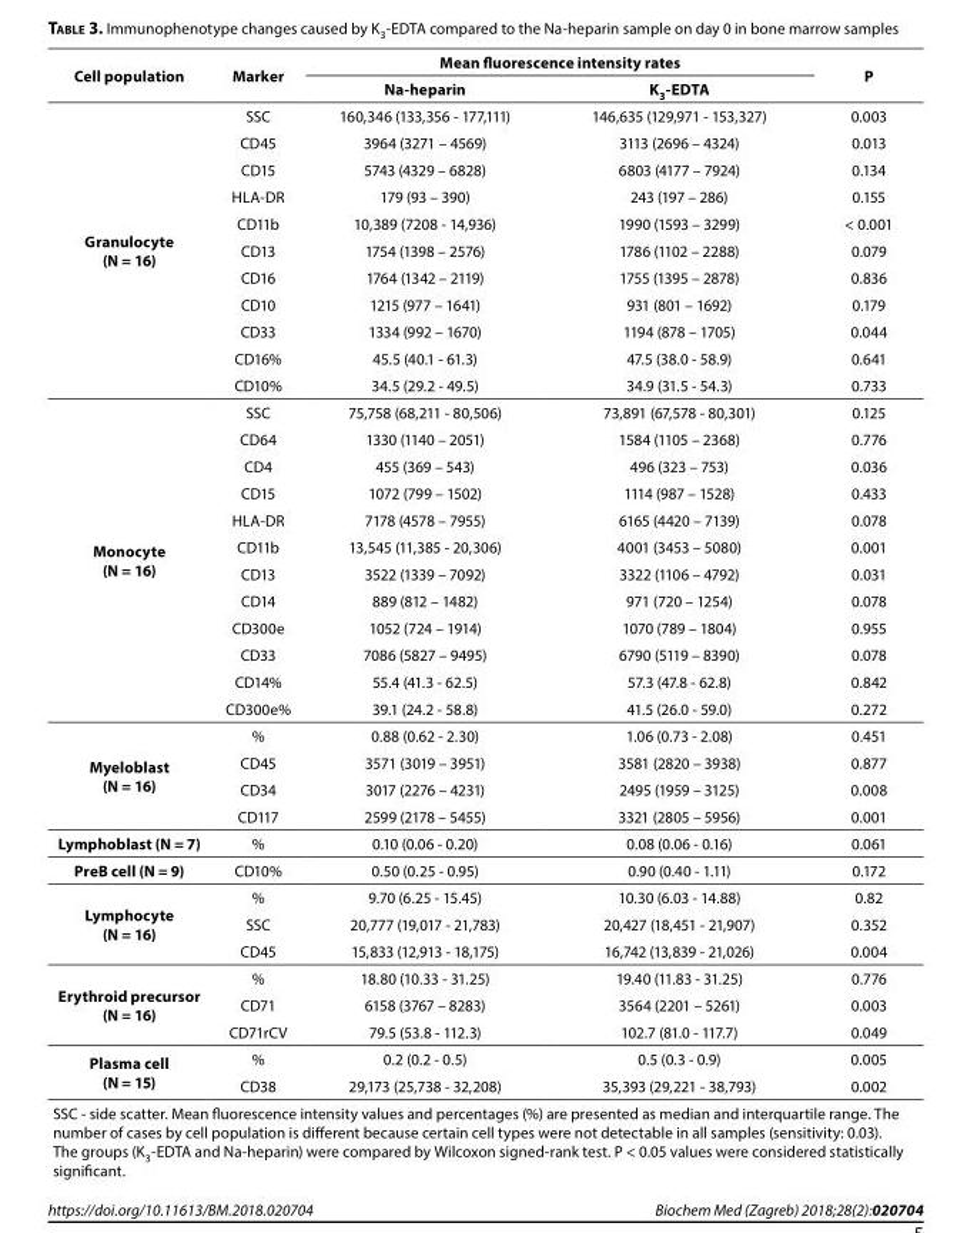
<table><thead><tr><td rowspan="2">Cell population</td><td rowspan="2">Marker</td><td colspan="2">Mean fluorescence intensity rates</td><td rowspan="2">P</td></tr><tr><td>Na-heparin</td><td>K<sub>3</sub>-EDTA</td></tr></thead><tbody><tr><td rowspan="11">Granulocyte (N = 16)</td><td>SSC</td><td>160,346 (133,356 - 177,111)</td><td>146,635 (129,971 - 153,327)</td><td>0.003</td></tr><tr><td>CD45</td><td>3964 (3271 – 4569)</td><td>3113 (2696 – 4324)</td><td>0.013</td></tr><tr><td>CD15</td><td>5743 (4329 – 6828)</td><td>6803 (4177 – 7924)</td><td>0.134</td></tr><tr><td>HLA-DR</td><td>179 (93 – 390)</td><td>243 (197 – 286)</td><td>0.155</td></tr><tr><td>CD11b</td><td>10,389 (7208 - 14,936)</td><td>1990 (1593 – 3299)</td><td>&lt; 0.001</td></tr><tr><td>CD13</td><td>1754 (1398 – 2576)</td><td>1786 (1102 – 2288)</td><td>0.079</td></tr><tr><td>CD16</td><td>1764 (1342 – 2119)</td><td>1755 (1395 – 2878)</td><td>0.836</td></tr><tr><td>CD10</td><td>1215 (977 – 1641)</td><td>931 (801 – 1692)</td><td>0.179</td></tr><tr><td>CD33</td><td>1334 (992 – 1670)</td><td>1194 (878 – 1705)</td><td>0.044</td></tr><tr><td>CD16%</td><td>45.5 (40.1 - 61.3)</td><td>47.5 (38.0 - 58.9)</td><td>0.641</td></tr><tr><td>CD10%</td><td>34.5 (29.2 - 49.5)</td><td>34.9 (31.5 - 54.3)</td><td>0.733</td></tr><tr><td rowspan="12">Monocyte (N = 16)</td><td>SSC</td><td>75,758 (68,211 - 80,506)</td><td>73,891 (67,578 - 80,301)</td><td>0.125</td></tr><tr><td>CD64</td><td>1330 (1140 – 2051)</td><td>1584 (1105 – 2368)</td><td>0.776</td></tr><tr><td>CD4</td><td>455 (369 – 543)</td><td>496 (323 – 753)</td><td>0.036</td></tr><tr><td>CD15</td><td>1072 (799 – 1502)</td><td>1114 (987 – 1528)</td><td>0.433</td></tr><tr><td>HLA-DR</td><td>7178 (4578 – 7955)</td><td>6165 (4420 – 7139)</td><td>0.078</td></tr><tr><td>CD11b</td><td>13,545 (11,385 - 20,306)</td><td>4001 (3453 – 5080)</td><td>0.001</td></tr><tr><td>CD13</td><td>3522 (1339 – 7092)</td><td>3322 (1106 – 4792)</td><td>0.031</td></tr><tr><td>CD14</td><td>889 (812 – 1482)</td><td>971 (720 – 1254)</td><td>0.078</td></tr><tr><td>CD300e</td><td>1052 (724 – 1914)</td><td>1070 (789 – 1804)</td><td>0.955</td></tr><tr><td>CD33</td><td>7086 (5827 – 9495)</td><td>6790 (5119 – 8390)</td><td>0.078</td></tr><tr><td>CD14%</td><td>55.4 (41.3 - 62.5)</td><td>57.3 (47.8 - 62.8)</td><td>0.842</td></tr><tr><td>CD300e%</td><td>39.1 (24.2 - 58.8)</td><td>41.5 (26.0 - 59.0)</td><td>0.272</td></tr><tr><td rowspan="4">Myeloblast (N = 16)</td><td>%</td><td>0.88 (0.62 - 2.30)</td><td>1.06 (0.73 - 2.08)</td><td>0.451</td></tr><tr><td>CD45</td><td>3571 (3019 – 3951)</td><td>3581 (2820 – 3938)</td><td>0.877</td></tr><tr><td>CD34</td><td>3017 (2276 – 4231)</td><td>2495 (1959 – 3125)</td><td>0.008</td></tr><tr><td>CD117</td><td>2599 (2178 – 5455)</td><td>3321 (2805 – 5956)</td><td>0.001</td></tr><tr><td>Lymphoblast (N = 7)</td><td>%</td><td>0.10 (0.06 - 0.20)</td><td>0.08 (0.06 - 0.16)</td><td>0.061</td></tr><tr><td>PreB cell (N = 9)</td><td>CD10%</td><td>0.50 (0.25 - 0.95)</td><td>0.90 (0.40 - 1.11)</td><td>0.172</td></tr><tr><td rowspan="3">Lymphocyte (N = 16)</td><td>%</td><td>9.70 (6.25 - 15.45)</td><td>10.30 (6.03 - 14.88)</td><td>0.82</td></tr><tr><td>SSC</td><td>20,777 (19,017 - 21,783)</td><td>20,427 (18,451 - 21,907)</td><td>0.352</td></tr><tr><td>CD45</td><td>15,833 (12,913 - 18,175)</td><td>16,742 (13,839 - 21,026)</td><td>0.004</td></tr><tr><td rowspan="3">Erythroid precursor (N = 16)</td><td>%</td><td>18.80 (10.33 - 31.25)</td><td>19.40 (11.83 - 31.25)</td><td>0.776</td></tr><tr><td>CD71</td><td>6158 (3767 – 8283)</td><td>3564 (2201 – 5261)</td><td>0.003</td></tr><tr><td>CD71rCV</td><td>79.5 (53.8 - 112.3)</td><td>102.7 (81.0 - 117.7)</td><td>0.049</td></tr><tr><td rowspan="2">Plasma cell (N = 15)</td><td>%</td><td>0.2 (0.2 - 0.5)</td><td>0.5 (0.3 - 0.9)</td><td>0.005</td></tr><tr><td>CD38</td><td>29,173 (25,738 - 32,208)</td><td>35,393 (29,221 - 38,793)</td><td>0.002</td></tr><tr><td colspan="5">SSC - side scatter. Mean fluorescence intensity values and percentages (%) are presented as median and interquartile range. The number of cases by cell population is different because certain cell types were not detectable in all samples (sensitivity: 0.03). The groups (K<sub>3</sub>-EDTA and Na-heparin) were compared by Wilcoxon signed-rank test. P &lt; 0.05 values were considered statistically significant.</td></tr></tbody></table>